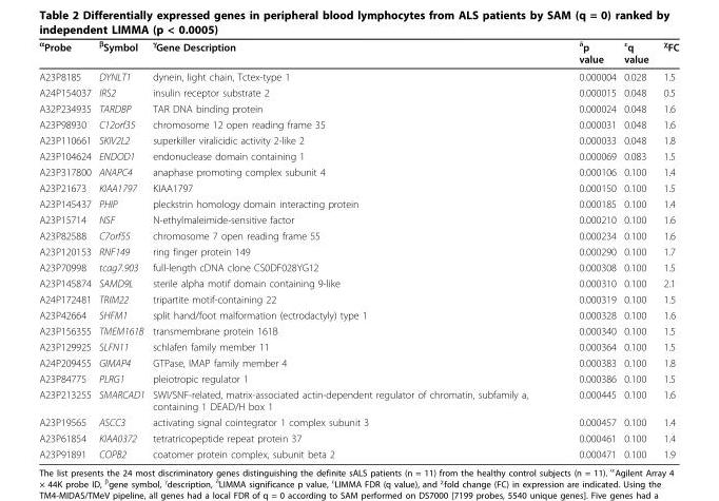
<table><thead><tr><td><sup>α</sup>Probe</td><td><sup>β</sup>Symbol</td><td><sup>γ</sup>Gene Description</td><td><sup>δ</sup>p value</td><td><sup>ε</sup>q value</td><td><sup>χ</sup>FC</td></tr></thead><tbody><tr><td>A23P8185</td><td>DYNLT1</td><td>dynein, light chain, Tctex-type 1</td><td>0.000004</td><td>0.028</td><td>1.5</td></tr><tr><td>A24P154037</td><td>IRS2</td><td>insulin receptor substrate 2</td><td>0.000015</td><td>0.048</td><td>0.5</td></tr><tr><td>A32P234935</td><td>TARDBP</td><td>TAR DNA binding protein</td><td>0.000024</td><td>0.048</td><td>1.6</td></tr><tr><td>A23P98930</td><td>C12orf35</td><td>chromosome 12 open reading frame 35</td><td>0.000031</td><td>0.048</td><td>1.6</td></tr><tr><td>A23P110661</td><td>SKIV2L2</td><td>superkiller viralicidic activity 2-like 2</td><td>0.000033</td><td>0.048</td><td>1.8</td></tr><tr><td>A23P104624</td><td>ENDOD1</td><td>endonuclease domain containing 1</td><td>0.000069</td><td>0.083</td><td>1.5</td></tr><tr><td>A23P317800</td><td>ANAPC4</td><td>anaphase promoting complex subunit 4</td><td>0.000106</td><td>0.100</td><td>1.4</td></tr><tr><td>A23P21673</td><td>KIAA1797</td><td>KIAA1797</td><td>0.000150</td><td>0.100</td><td>1.5</td></tr><tr><td>A23P145437</td><td>PHIP</td><td>pleckstrin homology domain interacting protein</td><td>0.000185</td><td>0.100</td><td>1.4</td></tr><tr><td>A23P15714</td><td>NSF</td><td>N-ethylmaleimide-sensitive factor</td><td>0.000210</td><td>0.100</td><td>1.6</td></tr><tr><td>A23P82588</td><td>C7orf55</td><td>chromosome 7 open reading frame 55</td><td>0.000234</td><td>0.100</td><td>1.6</td></tr><tr><td>A23P120153</td><td>RNF149</td><td>ring finger protein 149</td><td>0.000290</td><td>0.100</td><td>1.7</td></tr><tr><td>A23P70998</td><td>tcag7.903</td><td>full-length cDNA clone CS0DF028YG12</td><td>0.000308</td><td>0.100</td><td>1.5</td></tr><tr><td>A23P145874</td><td>SAMD9L</td><td>sterile alpha motif domain containing 9-like</td><td>0.000310</td><td>0.100</td><td>2.1</td></tr><tr><td>A24P172481</td><td>TRIM22</td><td>tripartite motif-containing 22</td><td>0.000319</td><td>0.100</td><td>1.5</td></tr><tr><td>A23P42664</td><td>SHFM1</td><td>split hand/foot malformation (ectrodactyly) type 1</td><td>0.000328</td><td>0.100</td><td>1.6</td></tr><tr><td>A23P156355</td><td>TMEM161B</td><td>transmembrane protein 161B</td><td>0.000340</td><td>0.100</td><td>1.5</td></tr><tr><td>A23P129925</td><td>SLFN11</td><td>schlafen family member 11</td><td>0.000364</td><td>0.100</td><td>1.5</td></tr><tr><td>A24P209455</td><td>GIMAP4</td><td>GTPase, IMAP family member 4</td><td>0.000383</td><td>0.100</td><td>1.8</td></tr><tr><td>A23P84775</td><td>PLRG1</td><td>pleiotropic regulator 1</td><td>0.000386</td><td>0.100</td><td>1.5</td></tr><tr><td>A23P213255</td><td>SMARCAD1</td><td>SWI/SNF-related, matrix-associated actin-dependent regulator of chromatin, subfamily a, containing 1 DEAD/H box 1</td><td>0.000445</td><td>0.100</td><td>1.6</td></tr><tr><td>A23P19565</td><td>ASCC3</td><td>activating signal cointegrator 1 complex subunit 3</td><td>0.000457</td><td>0.100</td><td>1.4</td></tr><tr><td>A23P61854</td><td>KIAA0372</td><td>tetratricopeptide repeat protein 37</td><td>0.000461</td><td>0.100</td><td>1.4</td></tr><tr><td>A23P91891</td><td>COPB2</td><td>coatomer protein complex, subunit beta 2</td><td>0.000471</td><td>0.100</td><td>1.9</td></tr></tbody></table>